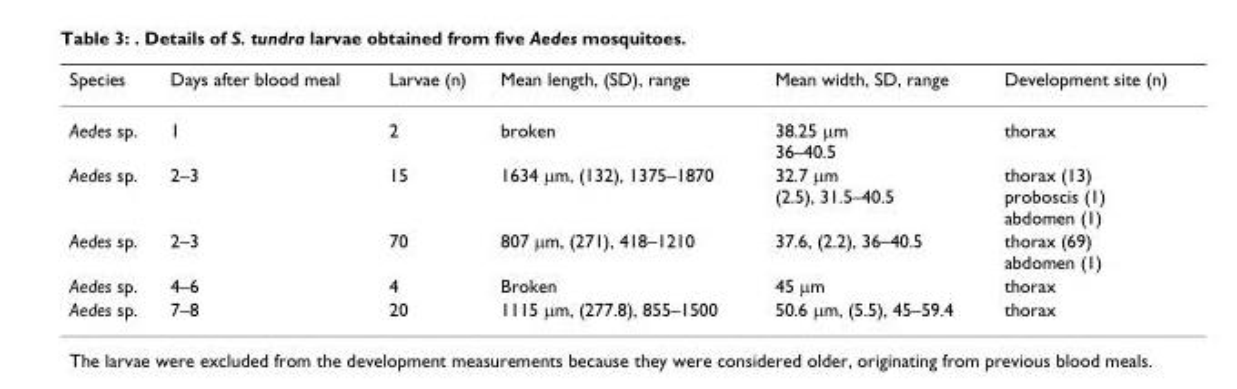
<table><thead><tr><td>Species</td><td>Days after blood meal</td><td>Larvae (n)</td><td>Mean length, (SD), range</td><td>Mean width, SD, range</td><td>Development site (n)</td></tr></thead><tbody><tr><td>Aedes sp.</td><td>1</td><td>2</td><td>broken</td><td>38.25 μm 36–40.5</td><td>thorax</td></tr><tr><td>Aedes sp.</td><td>2–3</td><td>15</td><td>1634 μm, (132), 1375–1870</td><td>32.7 μm (2.5), 31.5–40.5</td><td>thorax (13) proboscis (1) abdomen (1)</td></tr><tr><td>Aedes sp.</td><td>2–3</td><td>70</td><td>807 μm, (271), 418–1210</td><td>37.6, (2.2), 36–40.5</td><td>thorax (69) abdomen (1)</td></tr><tr><td>Aedes sp.</td><td>4–6</td><td>4</td><td>Broken</td><td>45 μm</td><td>thorax</td></tr><tr><td>Aedes sp.</td><td>7–8</td><td>20</td><td>1115 μm, (277.8), 855–1500</td><td>50.6 μm, (5.5), 45–59.4</td><td>thorax</td></tr></tbody></table>